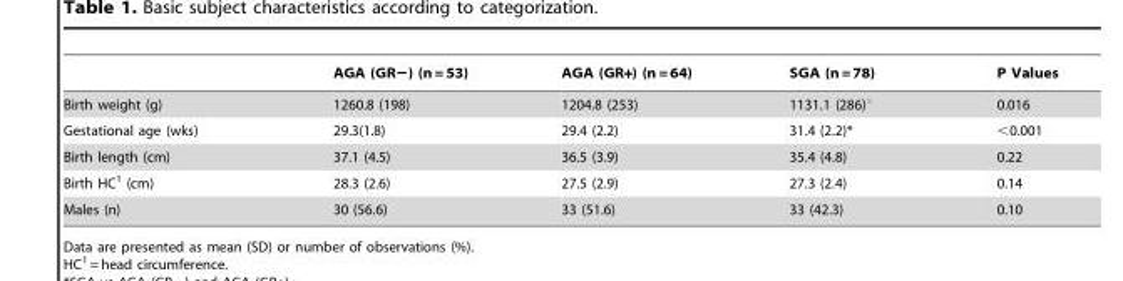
<table><thead><tr><td></td><td>AGA (GR−) (n = 53)</td><td>AGA (GR+) (n = 64)</td><td>SGA (n = 78)</td><td>P Values</td></tr></thead><tbody><tr><td>Birth weight (g)</td><td>1260.8 (198)</td><td>1204.8 (253)</td><td>1131.1 (286)°</td><td>0.016</td></tr><tr><td>Gestational age (wks)</td><td>29.3(1.8)</td><td>29.4 (2.2)</td><td>31.4 (2.2)*</td><td>&lt;0.001</td></tr><tr><td>Birth length (cm)</td><td>37.1 (4.5)</td><td>36.5 (3.9)</td><td>35.4 (4.8)</td><td>0.22</td></tr><tr><td>Birth HC<sup>1</sup> (cm)</td><td>28.3 (2.6)</td><td>27.5 (2.9)</td><td>27.3 (2.4)</td><td>0.14</td></tr><tr><td>Males (n)</td><td>30 (56.6)</td><td>33 (51.6)</td><td>33 (42.3)</td><td>0.10</td></tr></tbody></table>